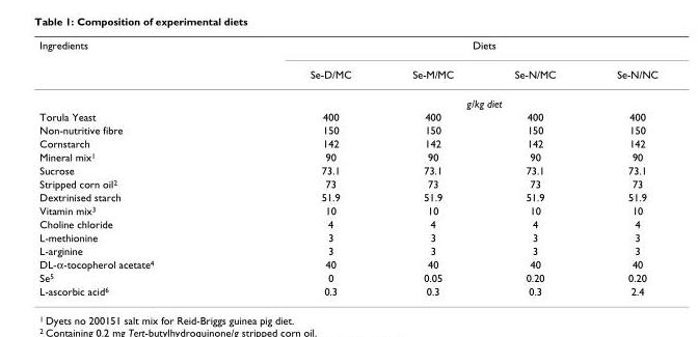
<table><thead><tr><td rowspan="2">Ingredients</td><td colspan="4">Diets</td></tr><tr><td>Se-D/MC</td><td>Se-M/MC</td><td>Se-N/MC</td><td>Se-N/NC</td></tr></thead><tbody><tr><td></td><td colspan="4">g/kg diet</td></tr><tr><td>Torula Yeast</td><td>400</td><td>400</td><td>400</td><td>400</td></tr><tr><td>Non-nutritive fibre</td><td>150</td><td>150</td><td>150</td><td>150</td></tr><tr><td>Cornstarch</td><td>142</td><td>142</td><td>142</td><td>142</td></tr><tr><td>Mineral mix<sup>1</sup></td><td>90</td><td>90</td><td>90</td><td>90</td></tr><tr><td>Sucrose</td><td>73.1</td><td>73.1</td><td>73.1</td><td>73.1</td></tr><tr><td>Stripped corn oil<sup>2</sup></td><td>73</td><td>73</td><td>73</td><td>73</td></tr><tr><td>Dextrinised starch</td><td>51.9</td><td>51.9</td><td>51.9</td><td>51.9</td></tr><tr><td>Vitamin mix<sup>3</sup></td><td>10</td><td>10</td><td>10</td><td>10</td></tr><tr><td>Choline chloride</td><td>4</td><td>4</td><td>4</td><td>4</td></tr><tr><td>L-methionine</td><td>3</td><td>3</td><td>3</td><td>3</td></tr><tr><td>L-arginine</td><td>3</td><td>3</td><td>3</td><td>3</td></tr><tr><td>DL-α-tocopherol acetate<sup>4</sup></td><td>40</td><td>40</td><td>40</td><td>40</td></tr><tr><td>Se<sup>5</sup></td><td>0</td><td>0.05</td><td>0.20</td><td>0.20</td></tr><tr><td>L-ascorbic acid<sup>6</sup></td><td>0.3</td><td>0.3</td><td>0.3</td><td>2.4</td></tr></tbody></table>